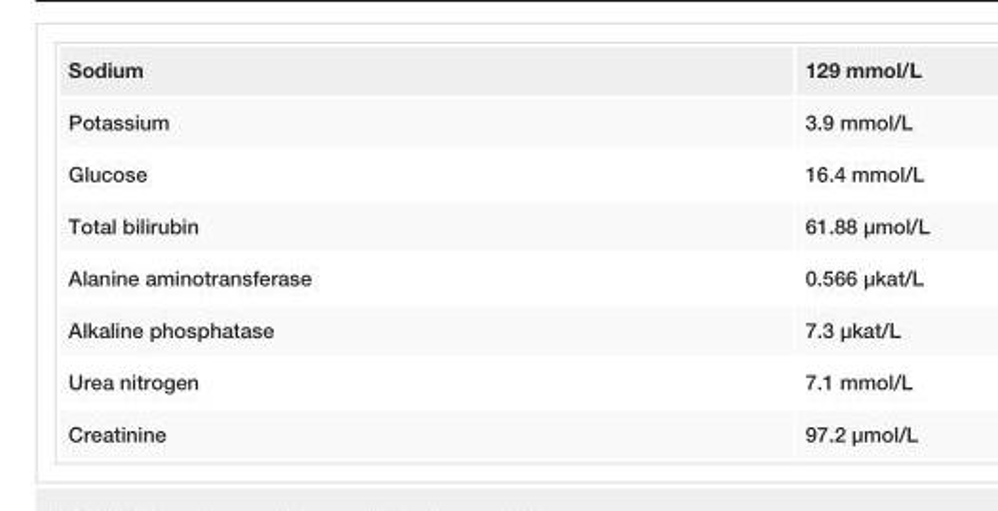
<table><tbody><tr><td>Sodium</td><td>129 mmol/L</td></tr><tr><td>Potassium</td><td>3.9 mmol/L</td></tr><tr><td>Glucose</td><td>16.4 mmol/L</td></tr><tr><td>Total bilirubin</td><td>61.88 µmol/L</td></tr><tr><td>Alanine aminotransferase</td><td>0.566 µkat/L</td></tr><tr><td>Alkaline phosphatase</td><td>7.3 µkat/L</td></tr><tr><td>Urea nitrogen</td><td>7.1 mmol/L</td></tr><tr><td>Creatinine</td><td>97.2 µmol/L</td></tr></tbody></table>